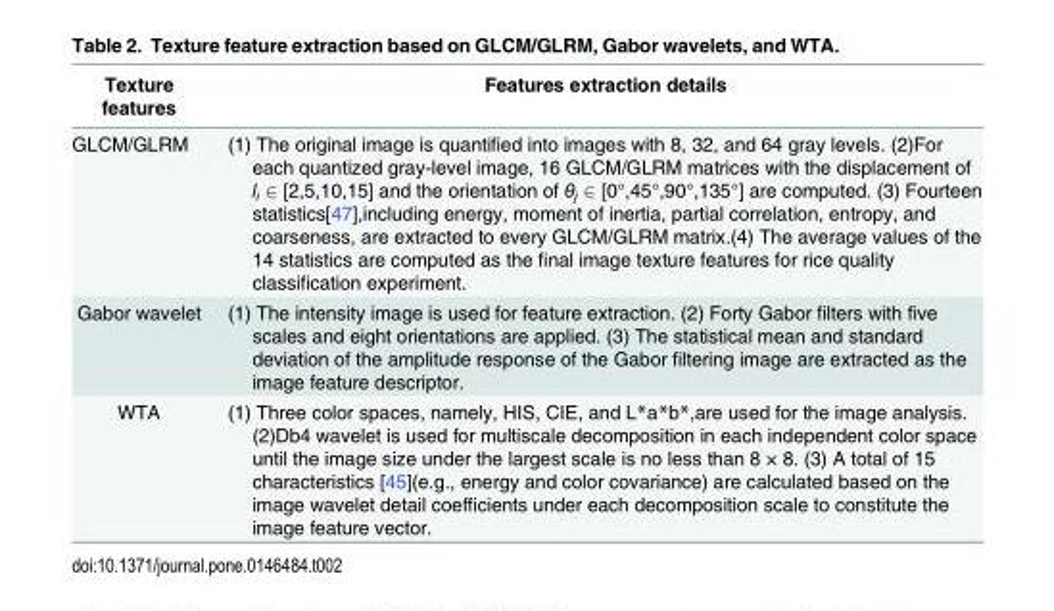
<table><thead><tr><td>Texture features</td><td>Features extraction details</td></tr></thead><tbody><tr><td>GLCM/GLRM</td><td>(1) The original image is quantified into images with 8, 32, and 64 gray levels. (2)For each quantized gray-level image, 16 GLCM/GLRM matrices with the displacement of l<sub>i</sub> ∈ [2,5,10,15] and the orientation of θ<sub>j</sub> ∈ [0°,45°,90°,135°] are computed. (3) Fourteen statistics[47],including energy, moment of inertia, partial correlation, entropy, and coarseness, are extracted to every GLCM/GLRM matrix.(4) The average values of the 14 statistics are computed as the final image texture features for rice quality classification experiment.</td></tr><tr><td>Gabor wavelet</td><td>(1) The intensity image is used for feature extraction. (2) Forty Gabor filters with five scales and eight orientations are applied. (3) The statistical mean and standard deviation of the amplitude response of the Gabor filtering image are extracted as the image feature descriptor.</td></tr><tr><td>WTA</td><td>(1) Three color spaces, namely, HIS, CIE, and L*a*b*,are used for the image analysis. (2)Db4 wavelet is used for multiscale decomposition in each independent color space until the image size under the largest scale is no less than 8 × 8. (3) A total of 15 characteristics [45](e.g., energy and color covariance) are calculated based on the image wavelet detail coefficients under each decomposition scale to constitute the image feature vector.</td></tr></tbody></table>